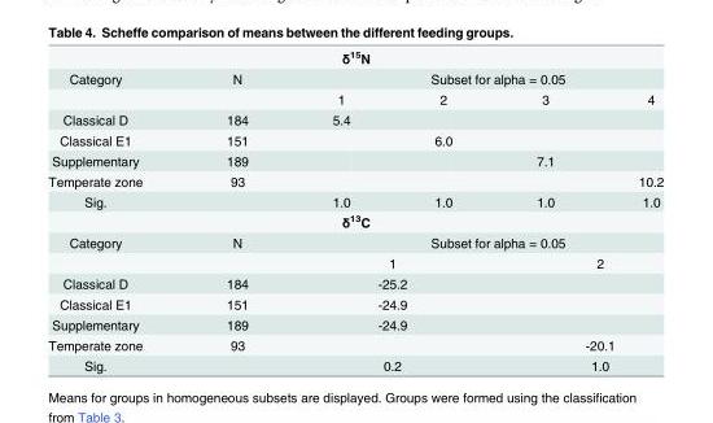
<table><tbody><tr><td colspan="6">δ<sup>15</sup>N</td></tr><tr><td rowspan="2">Category</td><td>N</td><td colspan="4">Subset for alpha = 0.05</td></tr><tr><td></td><td>1</td><td>2</td><td>3</td><td>4</td></tr><tr><td>Classical D</td><td>184</td><td>5.4</td><td></td><td></td><td></td></tr><tr><td>Classical E1</td><td>151</td><td></td><td>6.0</td><td></td><td></td></tr><tr><td>Supplementary</td><td>189</td><td></td><td></td><td>7.1</td><td></td></tr><tr><td>Temperate zone</td><td>93</td><td></td><td></td><td></td><td>10.2</td></tr><tr><td>Sig.</td><td></td><td>1.0</td><td>1.0</td><td>1.0</td><td>1.0</td></tr><tr><td colspan="6">δ<sup>13</sup>C</td></tr><tr><td rowspan="2">Category</td><td>N</td><td colspan="4">Subset for alpha = 0.05</td></tr><tr><td></td><td colspan="2">1</td><td colspan="2">2</td></tr><tr><td>Classical D</td><td>184</td><td colspan="2">-25.2</td><td colspan="2"></td></tr><tr><td>Classical E1</td><td>151</td><td colspan="2">-24.9</td><td colspan="2"></td></tr><tr><td>Supplementary</td><td>189</td><td colspan="2">-24.9</td><td colspan="2"></td></tr><tr><td>Temperate zone</td><td>93</td><td colspan="2"></td><td colspan="2">-20.1</td></tr><tr><td>Sig.</td><td></td><td colspan="2">0.2</td><td colspan="2">1.0</td></tr></tbody></table>